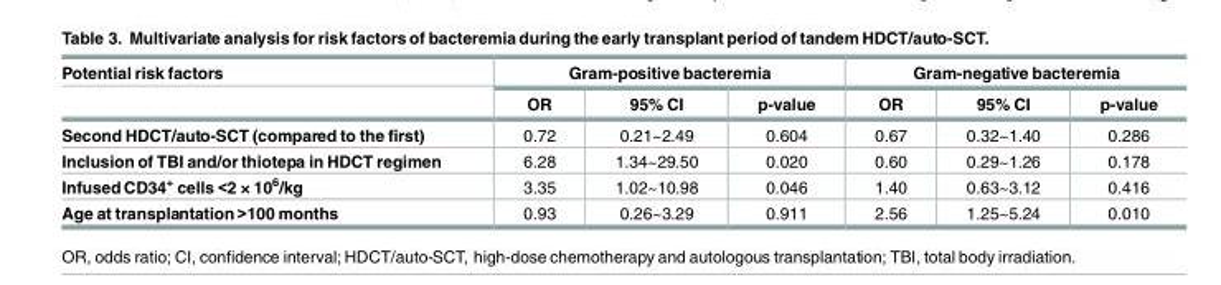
<table><thead><tr><td rowspan="2">Potential risk factors</td><td colspan="3">Gram-positive bacteremia</td><td colspan="3">Gram-negative bacteremia</td></tr><tr><td>OR</td><td>95% CI</td><td>p-value</td><td>OR</td><td>95% CI</td><td>p-value</td></tr></thead><tbody><tr><td>Second HDCT/auto-SCT (compared to the first)</td><td>0.72</td><td>0.21~2.49</td><td>0.604</td><td>0.67</td><td>0.32~1.40</td><td>0.286</td></tr><tr><td>Inclusion of TBI and/or thiotepa in HDCT regimen</td><td>6.28</td><td>1.34~29.50</td><td>0.020</td><td>0.60</td><td>0.29~1.26</td><td>0.178</td></tr><tr><td>Infused CD34<sup>+</sup> cells &lt;2 × 10<sup>6</sup>/kg</td><td>3.35</td><td>1.02~10.98</td><td>0.046</td><td>1.40</td><td>0.63~3.12</td><td>0.416</td></tr><tr><td>Age at transplantation &gt;100 months</td><td>0.93</td><td>0.26~3.29</td><td>0.911</td><td>2.56</td><td>1.25~5.24</td><td>0.010</td></tr></tbody></table>